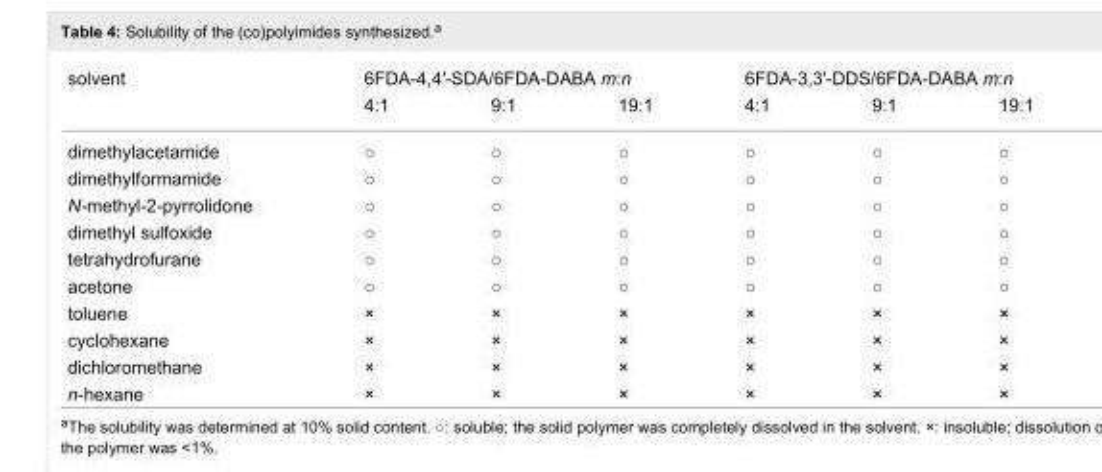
<table><tbody><tr><td rowspan="2">solvent</td><td colspan="3">6FDA-4,4′-SDA/6FDA-DABA m:n</td><td colspan="3">6FDA-3,3′-DDS/6FDA-DABA m:n</td></tr><tr><td>4:1</td><td>9:1</td><td>19:1</td><td>4:1</td><td>9:1</td><td>19:1</td></tr><tr><td>dimethylacetamide</td><td>○</td><td>○</td><td>○</td><td>○</td><td>○</td><td>○</td></tr><tr><td>dimethylformamide</td><td>○</td><td>○</td><td>○</td><td>○</td><td>○</td><td>○</td></tr><tr><td>N-methyl-2-pyrrolidone</td><td>○</td><td>○</td><td>○</td><td>○</td><td>○</td><td>○</td></tr><tr><td>dimethyl sulfoxide</td><td>○</td><td>○</td><td>○</td><td>○</td><td>○</td><td>○</td></tr><tr><td>tetrahydrofurane</td><td>○</td><td>○</td><td>○</td><td>○</td><td>○</td><td>○</td></tr><tr><td>acetone</td><td>○</td><td>○</td><td>○</td><td>○</td><td>○</td><td>○</td></tr><tr><td>toluene</td><td>×</td><td>×</td><td>×</td><td>×</td><td>×</td><td>×</td></tr><tr><td>cyclohexane</td><td>×</td><td>×</td><td>×</td><td>×</td><td>×</td><td>×</td></tr><tr><td>dichloromethane</td><td>×</td><td>×</td><td>×</td><td>×</td><td>×</td><td>×</td></tr><tr><td>n-hexane</td><td>×</td><td>×</td><td>×</td><td>×</td><td>×</td><td>×</td></tr></tbody></table>